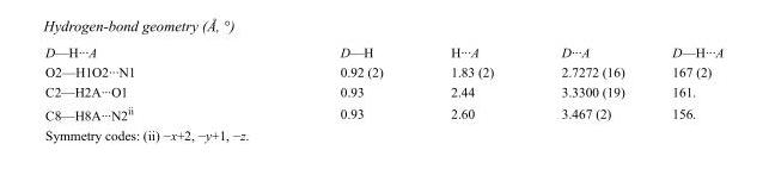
<table><tbody><tr><td>D—H···A</td><td>D—H</td><td>H···A</td><td>D···A</td><td>D—H···A</td></tr><tr><td>O2—H1O2···N1</td><td>0.92 (2)</td><td>1.83 (2)</td><td>2.7272 (16)</td><td>167 (2)</td></tr><tr><td>C2—H2A···O1</td><td>0.93</td><td>2.44</td><td>3.3300 (19)</td><td>161.</td></tr><tr><td>C8—H8A···N2<sup>ii</sup></td><td>0.93</td><td>2.60</td><td>3.467 (2)</td><td>156.</td></tr></tbody></table>